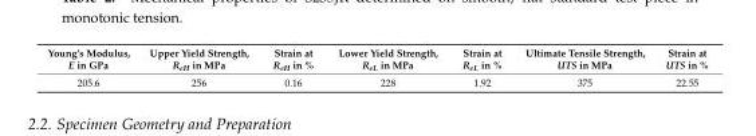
<table><thead><tr><td>Young’s Modulus, E in GPa</td><td>Upper Yield Strength, R<sub>eH</sub> in MPa</td><td>Strain at R<sub>eH</sub> in %</td><td>Lower Yield Strength, R<sub>eL</sub> in MPa</td><td>Strain at R<sub>eL</sub> in %</td><td>Ultimate Tensile Strength, UTS in MPa</td><td>Strain at UTS in %</td></tr></thead><tbody><tr><td>205.6</td><td>256</td><td>0.16</td><td>228</td><td>1.92</td><td>375</td><td>22.55</td></tr></tbody></table>